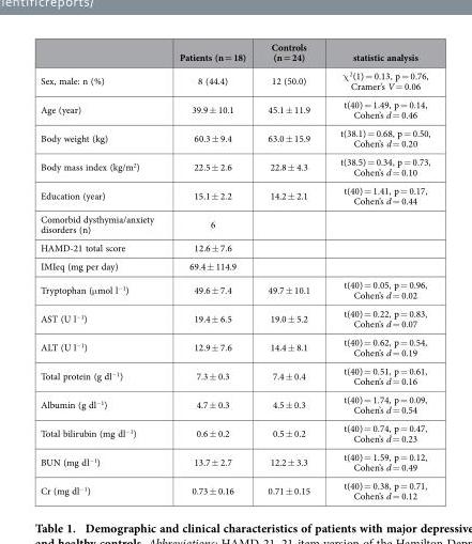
<table><thead><tr><td></td><td>Patients (n = 18)</td><td>Controls (n = 24)</td><td>statistic analysis</td></tr></thead><tbody><tr><td>Sex, male: n (%)</td><td>8 (44.4)</td><td>12 (50.0)</td><td>χ <sup>2</sup>(1) = 0.13, p = 0.76, Cramer’s V = 0.06</td></tr><tr><td>Age (year)</td><td>39.9 ± 10.1</td><td>45.1 ± 11.9</td><td>t(40) = 1.49, p = 0.14, Cohen’s d = 0.46</td></tr><tr><td>Body weight (kg)</td><td>60.3 ± 9.4</td><td>63.0 ± 15.9</td><td>t(38.1) = 0.68, p = 0.50, Cohen’s d = 0.20</td></tr><tr><td>Body mass index (kg/m<sup>2</sup>)</td><td>22.5 ± 2.6</td><td>22.8 ± 4.3</td><td>t(38.5) = 0.34, p = 0.73, Cohen’s d = 0.10</td></tr><tr><td>Education (year)</td><td>15.1 ± 2.2</td><td>14.2 ± 2.1</td><td>t(40) = 1.41, p = 0.17, Cohen’s d = 0.44</td></tr><tr><td>Comorbid dysthymia/anxiety disorders (n)</td><td>6</td><td></td><td></td></tr><tr><td>HAMD-21 total score</td><td>12.6 ± 7.6</td><td></td><td></td></tr><tr><td>IMIeq (mg per day)</td><td>69.4 ± 114.9</td><td></td><td></td></tr><tr><td>Tryptophan (μ mol l<sup>−1</sup>)</td><td>49.6 ± 7.4</td><td>49.7 ± 10.1</td><td>t(40) = 0.05, p = 0.96, Cohen’s d = 0.02</td></tr><tr><td>AST (U l<sup>−1</sup>)</td><td>19.4 ± 6.5</td><td>19.0 ± 5.2</td><td>t(40) = 0.22, p = 0.83, Cohen’s d = 0.07</td></tr><tr><td>ALT (U l<sup>−1</sup>)</td><td>12.9 ± 7.6</td><td>14.4 ± 8.1</td><td>t(40) = 0.62, p = 0.54, Cohen’s d = 0.19</td></tr><tr><td>Total protein (g dl<sup>−1</sup>)</td><td>7.3 ± 0.3</td><td>7.4 ± 0.4</td><td>t(40) = 0.51, p = 0.61, Cohen’s d = 0.16</td></tr><tr><td>Albumin (g dl<sup>−1</sup>)</td><td>4.7 ± 0.3</td><td>4.5 ± 0.3</td><td>t(40) = 1.74, p = 0.09, Cohen’s d = 0.54</td></tr><tr><td>Total bilirubin (mg dl<sup>−1</sup>)</td><td>0.6 ± 0.2</td><td>0.5 ± 0.2</td><td>t(40) = 0.74, p = 0.47, Cohen’s d = 0.23</td></tr><tr><td>BUN (mg dl<sup>−1</sup>)</td><td>13.7 ± 2.7</td><td>12.2 ± 3.3</td><td>t(40) = 1.59, p = 0.12, Cohen’s d = 0.49</td></tr><tr><td>Cr (mg dl<sup>−1</sup>)</td><td>0.73 ± 0.16</td><td>0.71 ± 0.15</td><td>t(40) = 0.38, p = 0.71, Cohen’s d = 0.12</td></tr></tbody></table>